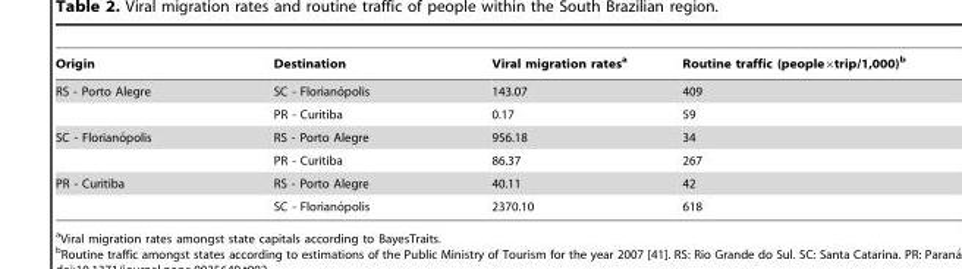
<table><thead><tr><td>Origin</td><td>Destination</td><td>Viral migration rates<sup>a</sup></td><td>Routine traffic (people×trip/1,000)<sup>b</sup></td></tr></thead><tbody><tr><td rowspan="2">RS - Porto Alegre</td><td>SC - Floriano´polis</td><td>143.07</td><td>409</td></tr><tr><td>PR - Curitiba</td><td>0.17</td><td>59</td></tr><tr><td rowspan="2">SC - Floriano´polis</td><td>RS - Porto Alegre</td><td>956.18</td><td>34</td></tr><tr><td>PR - Curitiba</td><td>86.37</td><td>267</td></tr><tr><td rowspan="2">PR - Curitiba</td><td>RS - Porto Alegre</td><td>40.11</td><td>42</td></tr><tr><td>SC - Floriano´polis</td><td>2370.10</td><td>618</td></tr></tbody></table>